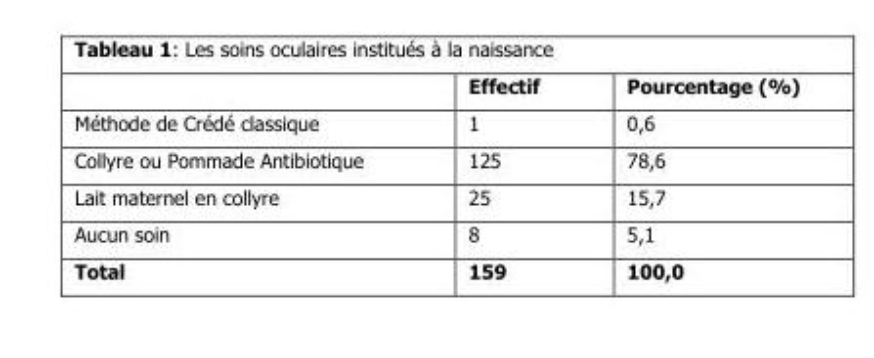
<table><thead><tr><td></td><td>Effectif</td><td>Pourcentage (%)</td></tr></thead><tbody><tr><td>Méthode de Crédé classique</td><td>1</td><td>0,6</td></tr><tr><td>Collyre ou Pommade Antibiotique</td><td>125</td><td>78,6</td></tr><tr><td>Lait maternel en collyre</td><td>25</td><td>15,7</td></tr><tr><td>Aucun soin</td><td>8</td><td>5,1</td></tr><tr><td>Total</td><td>159</td><td>100,0</td></tr></tbody></table>